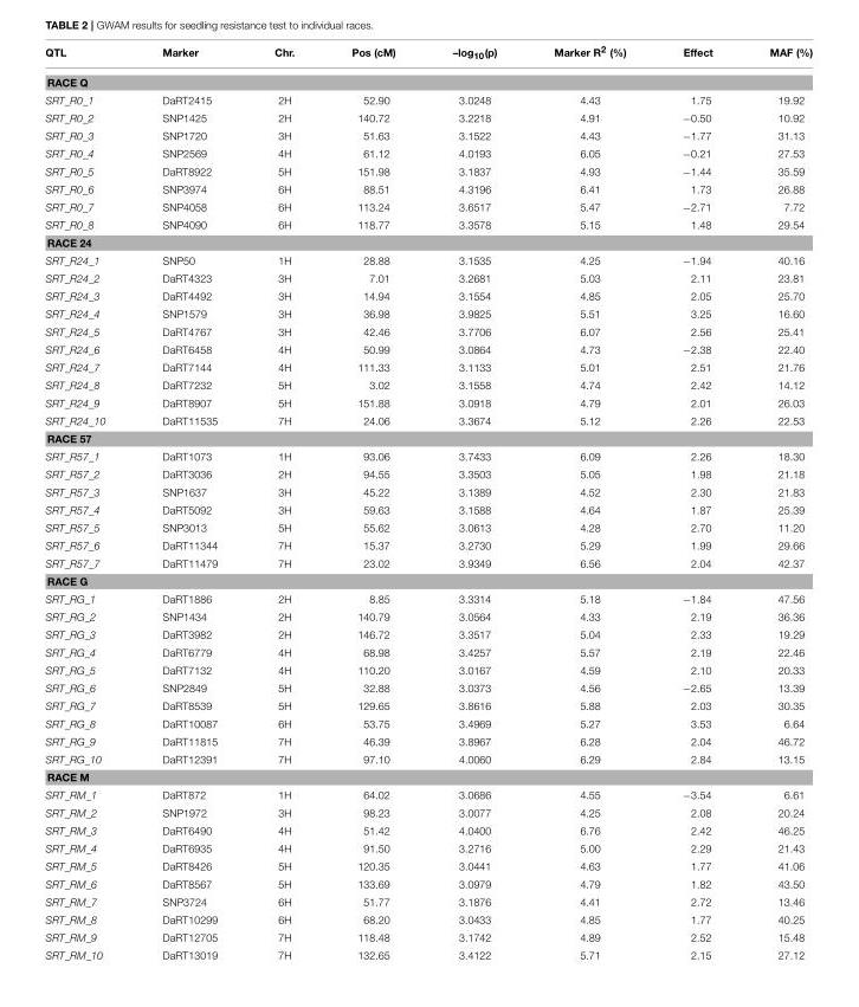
<table><thead><tr><td>QTL</td><td>Marker</td><td>Chr.</td><td>Pos (cM)</td><td>–log<sub>10</sub>(p)</td><td>Marker R<sup>2</sup> (%)</td><td>Effect</td><td>MAF (%)</td></tr></thead><tbody><tr><td colspan="8">RACE Q</td></tr><tr><td>SRT_R0_1</td><td>DaRT2415</td><td>2H</td><td>52.90</td><td>3.0248</td><td>4.43</td><td>1.75</td><td>19.92</td></tr><tr><td>SRT_R0_2</td><td>SNP1425</td><td>2H</td><td>140.72</td><td>3.2218</td><td>4.91</td><td>−0.50</td><td>10.92</td></tr><tr><td>SRT_R0_3</td><td>SNP1720</td><td>3H</td><td>51.63</td><td>3.1522</td><td>4.43</td><td>−1.77</td><td>31.13</td></tr><tr><td>SRT_R0_4</td><td>SNP2569</td><td>4H</td><td>61.12</td><td>4.0193</td><td>6.05</td><td>−0.21</td><td>27.53</td></tr><tr><td>SRT_R0_5</td><td>DaRT8922</td><td>5H</td><td>151.98</td><td>3.1837</td><td>4.93</td><td>−1.44</td><td>35.59</td></tr><tr><td>SRT_R0_6</td><td>SNP3974</td><td>6H</td><td>88.51</td><td>4.3196</td><td>6.41</td><td>1.73</td><td>26.88</td></tr><tr><td>SRT_R0_7</td><td>SNP4058</td><td>6H</td><td>113.24</td><td>3.6517</td><td>5.47</td><td>−2.71</td><td>7.72</td></tr><tr><td>SRT_R0_8</td><td>SNP4090</td><td>6H</td><td>118.77</td><td>3.3578</td><td>5.15</td><td>1.48</td><td>29.54</td></tr><tr><td colspan="8">RACE 24</td></tr><tr><td>SRT_R24_1</td><td>SNP50</td><td>1H</td><td>28.88</td><td>3.1535</td><td>4.25</td><td>−1.94</td><td>40.16</td></tr><tr><td>SRT_R24_2</td><td>DaRT4323</td><td>3H</td><td>7.01</td><td>3.2681</td><td>5.03</td><td>2.11</td><td>23.81</td></tr><tr><td>SRT_R24_3</td><td>DaRT4492</td><td>3H</td><td>14.94</td><td>3.1554</td><td>4.85</td><td>2.05</td><td>25.70</td></tr><tr><td>SRT_R24_4</td><td>SNP1579</td><td>3H</td><td>36.98</td><td>3.9825</td><td>5.51</td><td>3.25</td><td>16.60</td></tr><tr><td>SRT_R24_5</td><td>DaRT4767</td><td>3H</td><td>42.46</td><td>3.7706</td><td>6.07</td><td>2.56</td><td>25.41</td></tr><tr><td>SRT_R24_6</td><td>DaRT6458</td><td>4H</td><td>50.99</td><td>3.0864</td><td>4.73</td><td>−2.38</td><td>22.40</td></tr><tr><td>SRT_R24_7</td><td>DaRT7144</td><td>4H</td><td>111.33</td><td>3.1133</td><td>5.01</td><td>2.51</td><td>21.76</td></tr><tr><td>SRT_R24_8</td><td>DaRT7232</td><td>5H</td><td>3.02</td><td>3.1558</td><td>4.74</td><td>2.42</td><td>14.12</td></tr><tr><td>SRT_R24_9</td><td>DaRT8907</td><td>5H</td><td>151.88</td><td>3.0918</td><td>4.79</td><td>2.01</td><td>26.03</td></tr><tr><td>SRT_R24_10</td><td>DaRT11535</td><td>7H</td><td>24.06</td><td>3.3674</td><td>5.12</td><td>2.26</td><td>22.53</td></tr><tr><td colspan="8">RACE 57</td></tr><tr><td>SRT_R57_1</td><td>DaRT1073</td><td>1H</td><td>93.06</td><td>3.7433</td><td>6.09</td><td>2.26</td><td>18.30</td></tr><tr><td>SRT_R57_2</td><td>DaRT3036</td><td>2H</td><td>94.55</td><td>3.3503</td><td>5.05</td><td>1.98</td><td>21.18</td></tr><tr><td>SRT_R57_3</td><td>SNP1637</td><td>3H</td><td>45.22</td><td>3.1389</td><td>4.52</td><td>2.30</td><td>21.83</td></tr><tr><td>SRT_R57_4</td><td>DaRT5092</td><td>3H</td><td>59.63</td><td>3.1588</td><td>4.64</td><td>1.87</td><td>25.39</td></tr><tr><td>SRT_R57_5</td><td>SNP3013</td><td>5H</td><td>55.62</td><td>3.0613</td><td>4.28</td><td>2.70</td><td>11.20</td></tr><tr><td>SRT_R57_6</td><td>DaRT11344</td><td>7H</td><td>15.37</td><td>3.2730</td><td>5.29</td><td>1.99</td><td>29.66</td></tr><tr><td>SRT_R57_7</td><td>DaRT11479</td><td>7H</td><td>23.02</td><td>3.9349</td><td>6.56</td><td>2.04</td><td>42.37</td></tr><tr><td colspan="8">RACE G</td></tr><tr><td>SRT_RG_1</td><td>DaRT1886</td><td>2H</td><td>8.85</td><td>3.3314</td><td>5.18</td><td>−1.84</td><td>47.56</td></tr><tr><td>SRT_RG_2</td><td>SNP1434</td><td>2H</td><td>140.79</td><td>3.0564</td><td>4.33</td><td>2.19</td><td>36.36</td></tr><tr><td>SRT_RG_3</td><td>DaRT3982</td><td>2H</td><td>146.72</td><td>3.3517</td><td>5.04</td><td>2.33</td><td>19.29</td></tr><tr><td>SRT_RG_4</td><td>DaRT6779</td><td>4H</td><td>68.98</td><td>3.4257</td><td>5.57</td><td>2.19</td><td>22.46</td></tr><tr><td>SRT_RG_5</td><td>DaRT7132</td><td>4H</td><td>110.20</td><td>3.0167</td><td>4.59</td><td>2.10</td><td>20.33</td></tr><tr><td>SRT_RG_6</td><td>SNP2849</td><td>5H</td><td>32.88</td><td>3.0373</td><td>4.56</td><td>−2.65</td><td>13.39</td></tr><tr><td>SRT_RG_7</td><td>DaRT8539</td><td>5H</td><td>129.65</td><td>3.8616</td><td>5.88</td><td>2.03</td><td>30.35</td></tr><tr><td>SRT_RG_8</td><td>DaRT10087</td><td>6H</td><td>53.75</td><td>3.4969</td><td>5.27</td><td>3.53</td><td>6.64</td></tr><tr><td>SRT_RG_9</td><td>DaRT11815</td><td>7H</td><td>46.39</td><td>3.8967</td><td>6.28</td><td>2.04</td><td>46.72</td></tr><tr><td>SRT_RG_10</td><td>DaRT12391</td><td>7H</td><td>97.10</td><td>4.0060</td><td>6.29</td><td>2.84</td><td>13.15</td></tr><tr><td colspan="8">RACE M</td></tr><tr><td>SRT_RM_1</td><td>DaRT872</td><td>1H</td><td>64.02</td><td>3.0686</td><td>4.55</td><td>−3.54</td><td>6.61</td></tr><tr><td>SRT_RM_2</td><td>SNP1972</td><td>3H</td><td>98.23</td><td>3.0077</td><td>4.25</td><td>2.08</td><td>20.24</td></tr><tr><td>SRT_RM_3</td><td>DaRT6490</td><td>4H</td><td>51.42</td><td>4.0400</td><td>6.76</td><td>2.42</td><td>46.25</td></tr><tr><td>SRT_RM_4</td><td>DaRT6935</td><td>4H</td><td>91.50</td><td>3.2716</td><td>5.00</td><td>2.29</td><td>21.43</td></tr><tr><td>SRT_RM_5</td><td>DaRT8426</td><td>5H</td><td>120.35</td><td>3.0441</td><td>4.63</td><td>1.77</td><td>41.06</td></tr><tr><td>SRT_RM_6</td><td>DaRT8567</td><td>5H</td><td>133.69</td><td>3.0979</td><td>4.79</td><td>1.82</td><td>43.50</td></tr><tr><td>SRT_RM_7</td><td>SNP3724</td><td>6H</td><td>51.77</td><td>3.1876</td><td>4.41</td><td>2.72</td><td>13.46</td></tr><tr><td>SRT_RM_8</td><td>DaRT10299</td><td>6H</td><td>68.20</td><td>3.0433</td><td>4.85</td><td>1.77</td><td>40.25</td></tr><tr><td>SRT_RM_9</td><td>DaRT12705</td><td>7H</td><td>118.48</td><td>3.1742</td><td>4.89</td><td>2.52</td><td>15.48</td></tr><tr><td>SRT_RM_10</td><td>DaRT13019</td><td>7H</td><td>132.65</td><td>3.4122</td><td>5.71</td><td>2.15</td><td>27.12</td></tr></tbody></table>